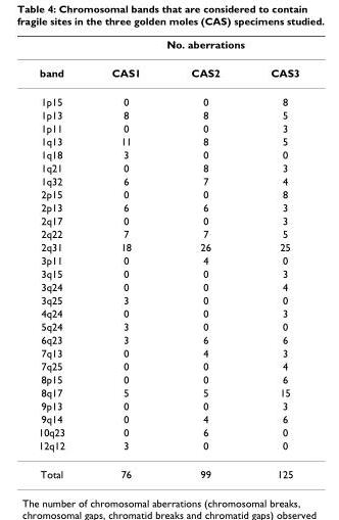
<table><thead><tr><td rowspan="2">band</td><td colspan="3">No. aberrations</td></tr><tr><td>CAS1</td><td>CAS2</td><td>CAS3</td></tr></thead><tbody><tr><td>1p15</td><td>0</td><td>0</td><td>8</td></tr><tr><td>1p13</td><td>8</td><td>8</td><td>5</td></tr><tr><td>1p11</td><td>0</td><td>0</td><td>3</td></tr><tr><td>1q13</td><td>11</td><td>8</td><td>5</td></tr><tr><td>1q18</td><td>3</td><td>0</td><td>0</td></tr><tr><td>1q21</td><td>0</td><td>8</td><td>3</td></tr><tr><td>1q32</td><td>6</td><td>7</td><td>4</td></tr><tr><td>2p15</td><td>0</td><td>0</td><td>8</td></tr><tr><td>2p13</td><td>6</td><td>6</td><td>3</td></tr><tr><td>2q17</td><td>0</td><td>0</td><td>3</td></tr><tr><td>2q22</td><td>7</td><td>7</td><td>5</td></tr><tr><td>2q31</td><td>18</td><td>26</td><td>25</td></tr><tr><td>3p11</td><td>0</td><td>4</td><td>0</td></tr><tr><td>3q15</td><td>0</td><td>0</td><td>3</td></tr><tr><td>3q24</td><td>0</td><td>0</td><td>4</td></tr><tr><td>3q25</td><td>3</td><td>0</td><td>0</td></tr><tr><td>4q24</td><td>0</td><td>0</td><td>3</td></tr><tr><td>5q24</td><td>3</td><td>0</td><td>0</td></tr><tr><td>6q23</td><td>3</td><td>6</td><td>6</td></tr><tr><td>7q13</td><td>0</td><td>4</td><td>3</td></tr><tr><td>7q25</td><td>0</td><td>0</td><td>4</td></tr><tr><td>8p15</td><td>0</td><td>0</td><td>6</td></tr><tr><td>8q17</td><td>5</td><td>5</td><td>15</td></tr><tr><td>9p13</td><td>0</td><td>0</td><td>3</td></tr><tr><td>9q14</td><td>0</td><td>4</td><td>6</td></tr><tr><td>10q23</td><td>0</td><td>6</td><td>0</td></tr><tr><td>12q12</td><td>3</td><td>0</td><td>0</td></tr><tr><td>Total</td><td>76</td><td>99</td><td>125</td></tr></tbody></table>